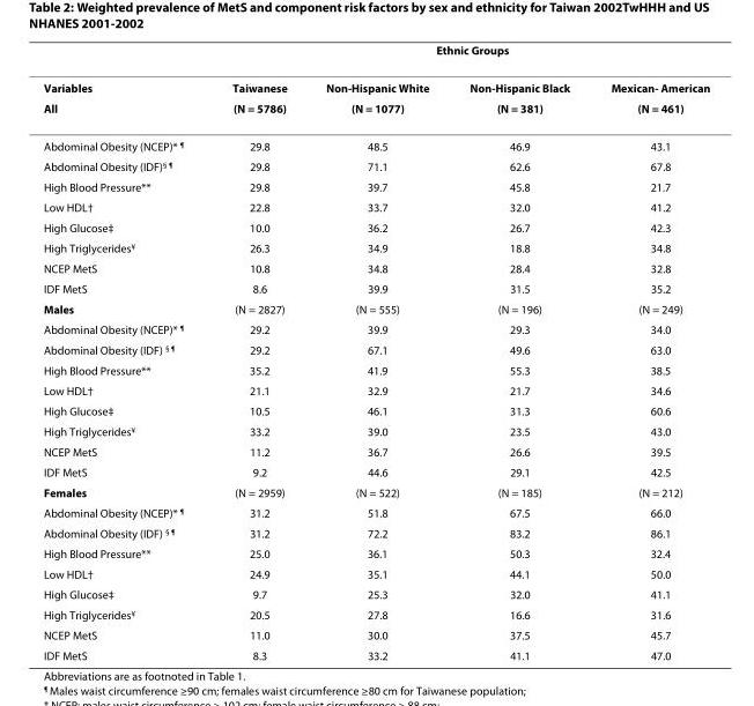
<table><thead><tr><td rowspan="2">Variables</td><td colspan="4">Ethnic Groups</td></tr><tr><td>Taiwanese</td><td>Non-Hispanic White</td><td>Non-Hispanic Black</td><td>Mexican- American</td></tr></thead><tbody><tr><td>All</td><td>(N = 5786)</td><td>(N = 1077)</td><td>(N = 381)</td><td>(N = 461)</td></tr><tr><td>Abdominal Obesity (NCEP)* <sup>¶</sup></td><td>29.8</td><td>48.5</td><td>46.9</td><td>43.1</td></tr><tr><td>Abdominal Obesity (IDF)<sup>§ ¶</sup></td><td>29.8</td><td>71.1</td><td>62.6</td><td>67.8</td></tr><tr><td>High Blood Pressure**</td><td>29.8</td><td>39.7</td><td>45.8</td><td>21.7</td></tr><tr><td>Low HDL†</td><td>22.8</td><td>33.7</td><td>32.0</td><td>41.2</td></tr><tr><td>High Glucose‡</td><td>10.0</td><td>36.2</td><td>26.7</td><td>42.3</td></tr><tr><td>High Triglycerides<sup>¥</sup></td><td>26.3</td><td>34.9</td><td>18.8</td><td>34.8</td></tr><tr><td>NCEP MetS</td><td>10.8</td><td>34.8</td><td>28.4</td><td>32.8</td></tr><tr><td>IDF MetS</td><td>8.6</td><td>39.9</td><td>31.5</td><td>35.2</td></tr><tr><td>Males</td><td>(N = 2827)</td><td>(N = 555)</td><td>(N = 196)</td><td>(N = 249)</td></tr><tr><td>Abdominal Obesity (NCEP)* <sup>¶</sup></td><td>29.2</td><td>39.9</td><td>29.3</td><td>34.0</td></tr><tr><td>Abdominal Obesity (IDF) <sup>§ ¶</sup></td><td>29.2</td><td>67.1</td><td>49.6</td><td>63.0</td></tr><tr><td>High Blood Pressure**</td><td>35.2</td><td>41.9</td><td>55.3</td><td>38.5</td></tr><tr><td>Low HDL†</td><td>21.1</td><td>32.9</td><td>21.7</td><td>34.6</td></tr><tr><td>High Glucose‡</td><td>10.5</td><td>46.1</td><td>31.3</td><td>60.6</td></tr><tr><td>High Triglycerides<sup>¥</sup></td><td>33.2</td><td>39.0</td><td>23.5</td><td>43.0</td></tr><tr><td>NCEP MetS</td><td>11.2</td><td>36.7</td><td>26.6</td><td>39.5</td></tr><tr><td>IDF MetS</td><td>9.2</td><td>44.6</td><td>29.1</td><td>42.5</td></tr><tr><td>Females</td><td>(N = 2959)</td><td>(N = 522)</td><td>(N = 185)</td><td>(N = 212)</td></tr><tr><td>Abdominal Obesity (NCEP)* <sup>¶</sup></td><td>31.2</td><td>51.8</td><td>67.5</td><td>66.0</td></tr><tr><td>Abdominal Obesity (IDF) <sup>§ ¶</sup></td><td>31.2</td><td>72.2</td><td>83.2</td><td>86.1</td></tr><tr><td>High Blood Pressure**</td><td>25.0</td><td>36.1</td><td>50.3</td><td>32.4</td></tr><tr><td>Low HDL†</td><td>24.9</td><td>35.1</td><td>44.1</td><td>50.0</td></tr><tr><td>High Glucose‡</td><td>9.7</td><td>25.3</td><td>32.0</td><td>41.1</td></tr><tr><td>High Triglycerides<sup>¥</sup></td><td>20.5</td><td>27.8</td><td>16.6</td><td>31.6</td></tr><tr><td>NCEP MetS</td><td>11.0</td><td>30.0</td><td>37.5</td><td>45.7</td></tr><tr><td>IDF MetS</td><td>8.3</td><td>33.2</td><td>41.1</td><td>47.0</td></tr></tbody></table>